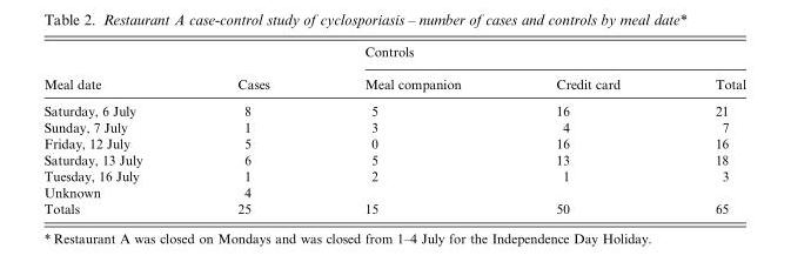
<table><thead><tr><td rowspan="2">Meal date</td><td rowspan="2">Cases</td><td colspan="3">Controls</td></tr><tr><td>Meal companion</td><td>Credit card</td><td>Total</td></tr></thead><tbody><tr><td>Saturday, 6 July</td><td>8</td><td>5</td><td>16</td><td>21</td></tr><tr><td>Sunday, 7 July</td><td>1</td><td>3</td><td>4</td><td>7</td></tr><tr><td>Friday, 12 July</td><td>5</td><td>0</td><td>16</td><td>16</td></tr><tr><td>Saturday, 13 July</td><td>6</td><td>5</td><td>13</td><td>18</td></tr><tr><td>Tuesday, 16 July</td><td>1</td><td>2</td><td>1</td><td>3</td></tr><tr><td>Unknown</td><td>4</td><td></td><td></td><td></td></tr><tr><td>Totals</td><td>25</td><td>15</td><td>50</td><td>65</td></tr></tbody></table>